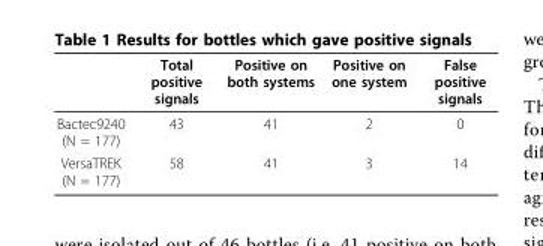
<table><thead><tr><td></td><td>Total positive signals</td><td>Positive on both systems</td><td>Positive on one system</td><td>False positive signals</td></tr></thead><tbody><tr><td>Bactec9240 (N = 177)</td><td>43</td><td>41</td><td>2</td><td>0</td></tr><tr><td>VersaTREK (N = 177)</td><td>58</td><td>41</td><td>3</td><td>14</td></tr></tbody></table>